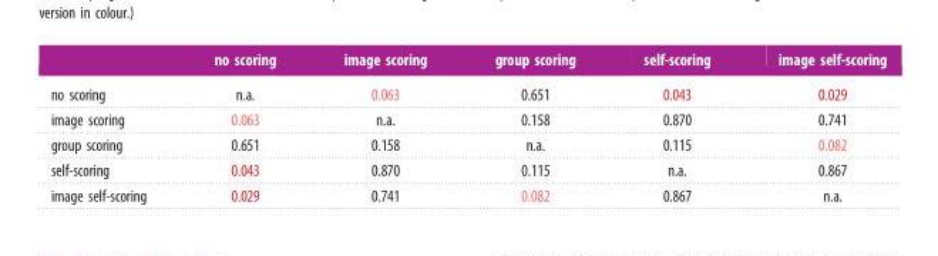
<table><thead><tr><td></td><td>no scoring</td><td>image scoring</td><td>group scoring</td><td>self-scoring</td><td>image self-scoring</td></tr></thead><tbody><tr><td>no scoring</td><td>n.a.</td><td>0.063</td><td>0.651</td><td>0.043</td><td>0.029</td></tr><tr><td>image scoring</td><td>0.063</td><td>n.a.</td><td>0.158</td><td>0.870</td><td>0.741</td></tr><tr><td>group scoring</td><td>0.651</td><td>0.158</td><td>n.a.</td><td>0.115</td><td>0.082</td></tr><tr><td>self-scoring</td><td>0.043</td><td>0.870</td><td>0.115</td><td>n.a.</td><td>0.867</td></tr><tr><td>image self-scoring</td><td>0.029</td><td>0.741</td><td>0.082</td><td>0.867</td><td>n.a.</td></tr></tbody></table>